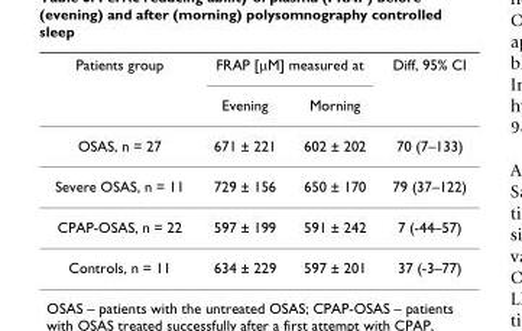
<table><thead><tr><td rowspan="2">Patients group</td><td colspan="2">FRAP [μM] measured at</td><td rowspan="2">Diff, 95% CI</td></tr><tr><td>Evening</td><td>Morning</td></tr></thead><tbody><tr><td>OSAS, n = 27</td><td>671 ± 221</td><td>602 ± 202</td><td>70 (7–133)</td></tr><tr><td>Severe OSAS, n = 11</td><td>729 ± 156</td><td>650 ± 170</td><td>79 (37–122)</td></tr><tr><td>CPAP-OSAS, n = 22</td><td>597 ± 199</td><td>591 ± 242</td><td>7 (-44–57)</td></tr><tr><td>Controls, n = 11</td><td>634 ± 229</td><td>597 ± 201</td><td>37 (-3–77)</td></tr></tbody></table>